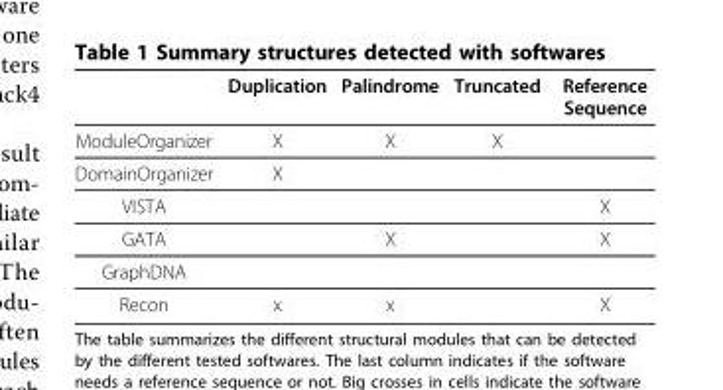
<table><thead><tr><td></td><td>Duplication</td><td>Palindrome</td><td>Truncated</td><td>Reference Sequence</td></tr></thead><tbody><tr><td>ModuleOrganizer</td><td>X</td><td>X</td><td>X</td><td></td></tr><tr><td>DomainOrganizer</td><td>X</td><td></td><td></td><td></td></tr><tr><td>VISTA</td><td></td><td></td><td></td><td>X</td></tr><tr><td>GATA</td><td></td><td>X</td><td></td><td>X</td></tr><tr><td colspan="5">GraphDNA</td></tr><tr><td>Recon</td><td>x</td><td>x</td><td></td><td>X</td></tr></tbody></table>